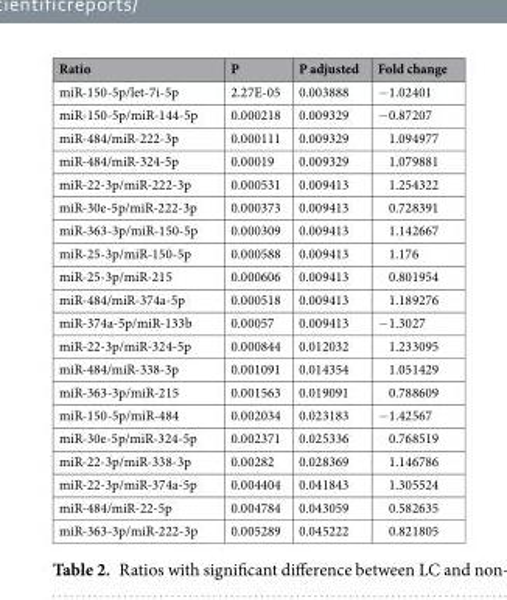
<table><thead><tr><td>Ratio</td><td>P</td><td>P adjusted</td><td>Fold change</td></tr></thead><tbody><tr><td>miR-150-5p/let-7i-5p</td><td>2.27E-05</td><td>0.003888</td><td>−1.02401</td></tr><tr><td>miR-150-5p/miR-144-5p</td><td>0.000218</td><td>0.009329</td><td>−0.87207</td></tr><tr><td>miR-484/miR-222-3p</td><td>0.000111</td><td>0.009329</td><td>1.094977</td></tr><tr><td>miR-484/miR-324-5p</td><td>0.00019</td><td>0.009329</td><td>1.079881</td></tr><tr><td>miR-22-3p/miR-222-3p</td><td>0.000531</td><td>0.009413</td><td>1.254322</td></tr><tr><td>miR-30e-5p/miR-222-3p</td><td>0.000373</td><td>0.009413</td><td>0.728391</td></tr><tr><td>miR-363-3p/miR-150-5p</td><td>0.000309</td><td>0.009413</td><td>1.142667</td></tr><tr><td>miR-25-3p/miR-150-5p</td><td>0.000588</td><td>0.009413</td><td>1.176</td></tr><tr><td>miR-25-3p/miR-215</td><td>0.000606</td><td>0.009413</td><td>0.801954</td></tr><tr><td>miR-484/miR-374a-5p</td><td>0.000518</td><td>0.009413</td><td>1.189276</td></tr><tr><td>miR-374a-5p/miR-133b</td><td>0.00057</td><td>0.009413</td><td>−1.3027</td></tr><tr><td>miR-22-3p/miR-324-5p</td><td>0.000844</td><td>0.012032</td><td>1.233095</td></tr><tr><td>miR-484/miR-338-3p</td><td>0.001091</td><td>0.014354</td><td>1.051429</td></tr><tr><td>miR-363-3p/miR-215</td><td>0.001563</td><td>0.019091</td><td>0.788609</td></tr><tr><td>miR-150-5p/miR-484</td><td>0.002034</td><td>0.023183</td><td>−1.42567</td></tr><tr><td>miR-30e-5p/miR-324-5p</td><td>0.002371</td><td>0.025336</td><td>0.768519</td></tr><tr><td>miR-22-3p/miR-338-3p</td><td>0.00282</td><td>0.028369</td><td>1.146786</td></tr><tr><td>miR-22-3p/miR-374a-5p</td><td>0.004404</td><td>0.041843</td><td>1.305524</td></tr><tr><td>miR-484/miR-22-5p</td><td>0.004784</td><td>0.043059</td><td>0.582635</td></tr><tr><td>miR-363-3p/miR-222-3p</td><td>0.005289</td><td>0.045222</td><td>0.821805</td></tr></tbody></table>